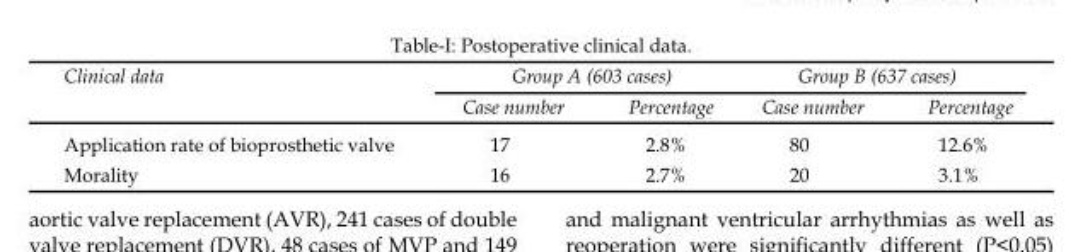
<table><thead><tr><td rowspan="2">Clinical data</td><td colspan="2">Group A (603 cases)</td><td colspan="2">Group B (637 cases)</td></tr><tr><td>Case number</td><td>Percentage</td><td>Case number</td><td>Percentage</td></tr></thead><tbody><tr><td>Application rate of bioprosthetic valve</td><td>17</td><td>2.8%</td><td>80</td><td>12.6%</td></tr><tr><td>Morality</td><td>16</td><td>2.7%</td><td>20</td><td>3.1%</td></tr></tbody></table>